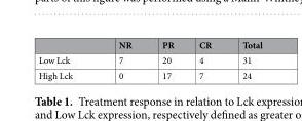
<table><thead><tr><td></td><td>NR</td><td>PR</td><td>CR</td><td>Total</td></tr></thead><tbody><tr><td>Low Lck</td><td>7</td><td>20</td><td>4</td><td>31</td></tr><tr><td>High Lck</td><td>0</td><td>17</td><td>7</td><td>24</td></tr></tbody></table>